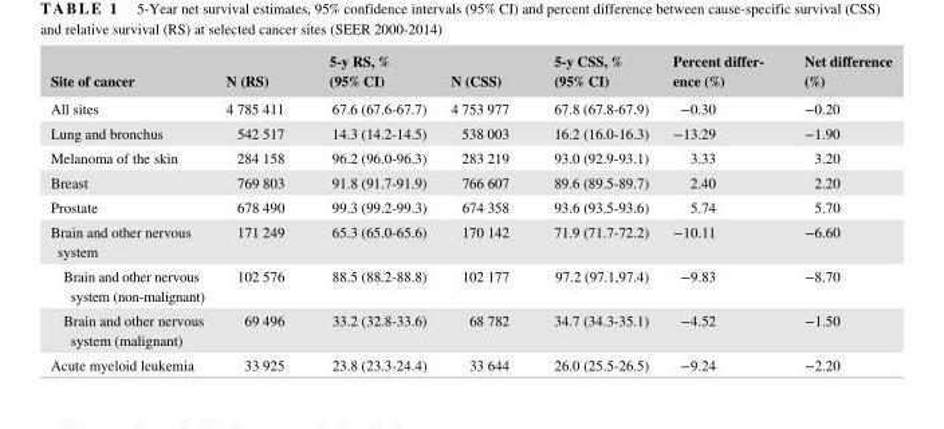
<table><thead><tr><td>Site of cancer</td><td>N (RS)</td><td>5- y RS, % (95% CI)</td><td>N (CSS)</td><td>5- y CSS, % (95% CI)</td><td>Percent differ- ence (%)</td><td>Net difference (%)</td></tr></thead><tbody><tr><td>All sites</td><td>4 785 411</td><td>67.6 (67.6- 67.7)</td><td>4 753 977</td><td>67.8 (67.8- 67.9)</td><td>−0.30</td><td>−0.20</td></tr><tr><td>Lung and bronchus</td><td>542 517</td><td>14.3 (14.2- 14.5)</td><td>538 003</td><td>16.2 (16.0- 16.3)</td><td>−13.29</td><td>−1.90</td></tr><tr><td>Melanoma of the skin</td><td>284 158</td><td>96.2 (96.0- 96.3)</td><td>283 219</td><td>93.0 (92.9- 93.1)</td><td>3.33</td><td>3.20</td></tr><tr><td>Breast</td><td>769 803</td><td>91.8 (91.7- 91.9)</td><td>766 607</td><td>89.6 (89.5- 89.7)</td><td>2.40</td><td>2.20</td></tr><tr><td>Prostate</td><td>678 490</td><td>99.3 (99.2- 99.3)</td><td>674 358</td><td>93.6 (93.5- 93.6)</td><td>5.74</td><td>5.70</td></tr><tr><td>Brain and other nervous system</td><td>171 249</td><td>65.3 (65.0- 65.6)</td><td>170 142</td><td>71.9 (71.7- 72.2)</td><td>−10.11</td><td>−6.60</td></tr><tr><td>Brain and other nervous system (non-malignant)</td><td>102 576</td><td>88.5 (88.2- 88.8)</td><td>102 177</td><td>97.2 (97.1,97.4)</td><td>−9.83</td><td>−8.70</td></tr><tr><td>Brain and other nervous system (malignant)</td><td>69 496</td><td>33.2 (32.8- 33.6)</td><td>68 782</td><td>34.7 (34.3- 35.1)</td><td>−4.52</td><td>−1.50</td></tr><tr><td>Acute myeloid leukemia</td><td>33 925</td><td>23.8 (23.3- 24.4)</td><td>33 644</td><td>26.0 (25.5- 26.5)</td><td>−9.24</td><td>−2.20</td></tr></tbody></table>